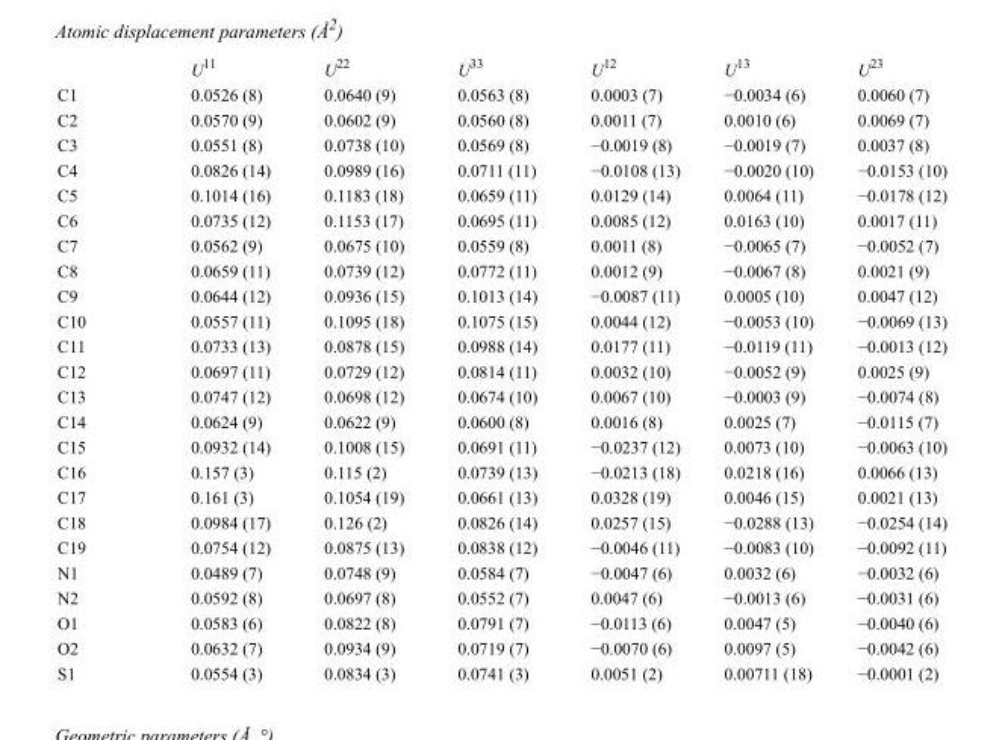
<table><thead><tr><td></td><td>U<sup>11</sup></td><td>U<sup>22</sup></td><td>U<sup>33</sup></td><td>U<sup>12</sup></td><td>U<sup>13</sup></td><td>U<sup>23</sup></td></tr></thead><tbody><tr><td>C1</td><td>0.0526 (8)</td><td>0.0640 (9)</td><td>0.0563 (8)</td><td>0.0003 (7)</td><td>−0.0034 (6)</td><td>0.0060 (7)</td></tr><tr><td>C2</td><td>0.0570 (9)</td><td>0.0602 (9)</td><td>0.0560 (8)</td><td>0.0011 (7)</td><td>0.0010 (6)</td><td>0.0069 (7)</td></tr><tr><td>C3</td><td>0.0551 (8)</td><td>0.0738 (10)</td><td>0.0569 (8)</td><td>−0.0019 (8)</td><td>−0.0019 (7)</td><td>0.0037 (8)</td></tr><tr><td>C4</td><td>0.0826 (14)</td><td>0.0989 (16)</td><td>0.0711 (11)</td><td>−0.0108 (13)</td><td>−0.0020 (10)</td><td>−0.0153 (10)</td></tr><tr><td>C5</td><td>0.1014 (16)</td><td>0.1183 (18)</td><td>0.0659 (11)</td><td>0.0129 (14)</td><td>0.0064 (11)</td><td>−0.0178 (12)</td></tr><tr><td>C6</td><td>0.0735 (12)</td><td>0.1153 (17)</td><td>0.0695 (11)</td><td>0.0085 (12)</td><td>0.0163 (10)</td><td>0.0017 (11)</td></tr><tr><td>C7</td><td>0.0562 (9)</td><td>0.0675 (10)</td><td>0.0559 (8)</td><td>0.0011 (8)</td><td>−0.0065 (7)</td><td>−0.0052 (7)</td></tr><tr><td>C8</td><td>0.0659 (11)</td><td>0.0739 (12)</td><td>0.0772 (11)</td><td>0.0012 (9)</td><td>−0.0067 (8)</td><td>0.0021 (9)</td></tr><tr><td>C9</td><td>0.0644 (12)</td><td>0.0936 (15)</td><td>0.1013 (14)</td><td>−0.0087 (11)</td><td>0.0005 (10)</td><td>0.0047 (12)</td></tr><tr><td>C10</td><td>0.0557 (11)</td><td>0.1095 (18)</td><td>0.1075 (15)</td><td>0.0044 (12)</td><td>−0.0053 (10)</td><td>−0.0069 (13)</td></tr><tr><td>C11</td><td>0.0733 (13)</td><td>0.0878 (15)</td><td>0.0988 (14)</td><td>0.0177 (11)</td><td>−0.0119 (11)</td><td>−0.0013 (12)</td></tr><tr><td>C12</td><td>0.0697 (11)</td><td>0.0729 (12)</td><td>0.0814 (11)</td><td>0.0032 (10)</td><td>−0.0052 (9)</td><td>0.0025 (9)</td></tr><tr><td>C13</td><td>0.0747 (12)</td><td>0.0698 (12)</td><td>0.0674 (10)</td><td>0.0067 (10)</td><td>−0.0003 (9)</td><td>−0.0074 (8)</td></tr><tr><td>C14</td><td>0.0624 (9)</td><td>0.0622 (9)</td><td>0.0600 (8)</td><td>0.0016 (8)</td><td>0.0025 (7)</td><td>−0.0115 (7)</td></tr><tr><td>C15</td><td>0.0932 (14)</td><td>0.1008 (15)</td><td>0.0691 (11)</td><td>−0.0237 (12)</td><td>0.0073 (10)</td><td>−0.0063 (10)</td></tr><tr><td>C16</td><td>0.157 (3)</td><td>0.115 (2)</td><td>0.0739 (13)</td><td>−0.0213 (18)</td><td>0.0218 (16)</td><td>0.0066 (13)</td></tr><tr><td>C17</td><td>0.161 (3)</td><td>0.1054 (19)</td><td>0.0661 (13)</td><td>0.0328 (19)</td><td>0.0046 (15)</td><td>0.0021 (13)</td></tr><tr><td>C18</td><td>0.0984 (17)</td><td>0.126 (2)</td><td>0.0826 (14)</td><td>0.0257 (15)</td><td>−0.0288 (13)</td><td>−0.0254 (14)</td></tr><tr><td>C19</td><td>0.0754 (12)</td><td>0.0875 (13)</td><td>0.0838 (12)</td><td>−0.0046 (11)</td><td>−0.0083 (10)</td><td>−0.0092 (11)</td></tr><tr><td>N1</td><td>0.0489 (7)</td><td>0.0748 (9)</td><td>0.0584 (7)</td><td>−0.0047 (6)</td><td>0.0032 (6)</td><td>−0.0032 (6)</td></tr><tr><td>N2</td><td>0.0592 (8)</td><td>0.0697 (8)</td><td>0.0552 (7)</td><td>0.0047 (6)</td><td>−0.0013 (6)</td><td>−0.0031 (6)</td></tr><tr><td>O1</td><td>0.0583 (6)</td><td>0.0822 (8)</td><td>0.0791 (7)</td><td>−0.0113 (6)</td><td>0.0047 (5)</td><td>−0.0040 (6)</td></tr><tr><td>O2</td><td>0.0632 (7)</td><td>0.0934 (9)</td><td>0.0719 (7)</td><td>−0.0070 (6)</td><td>0.0097 (5)</td><td>−0.0042 (6)</td></tr><tr><td>S1</td><td>0.0554 (3)</td><td>0.0834 (3)</td><td>0.0741 (3)</td><td>0.0051 (2)</td><td>0.00711 (18)</td><td>−0.0001 (2)</td></tr></tbody></table>